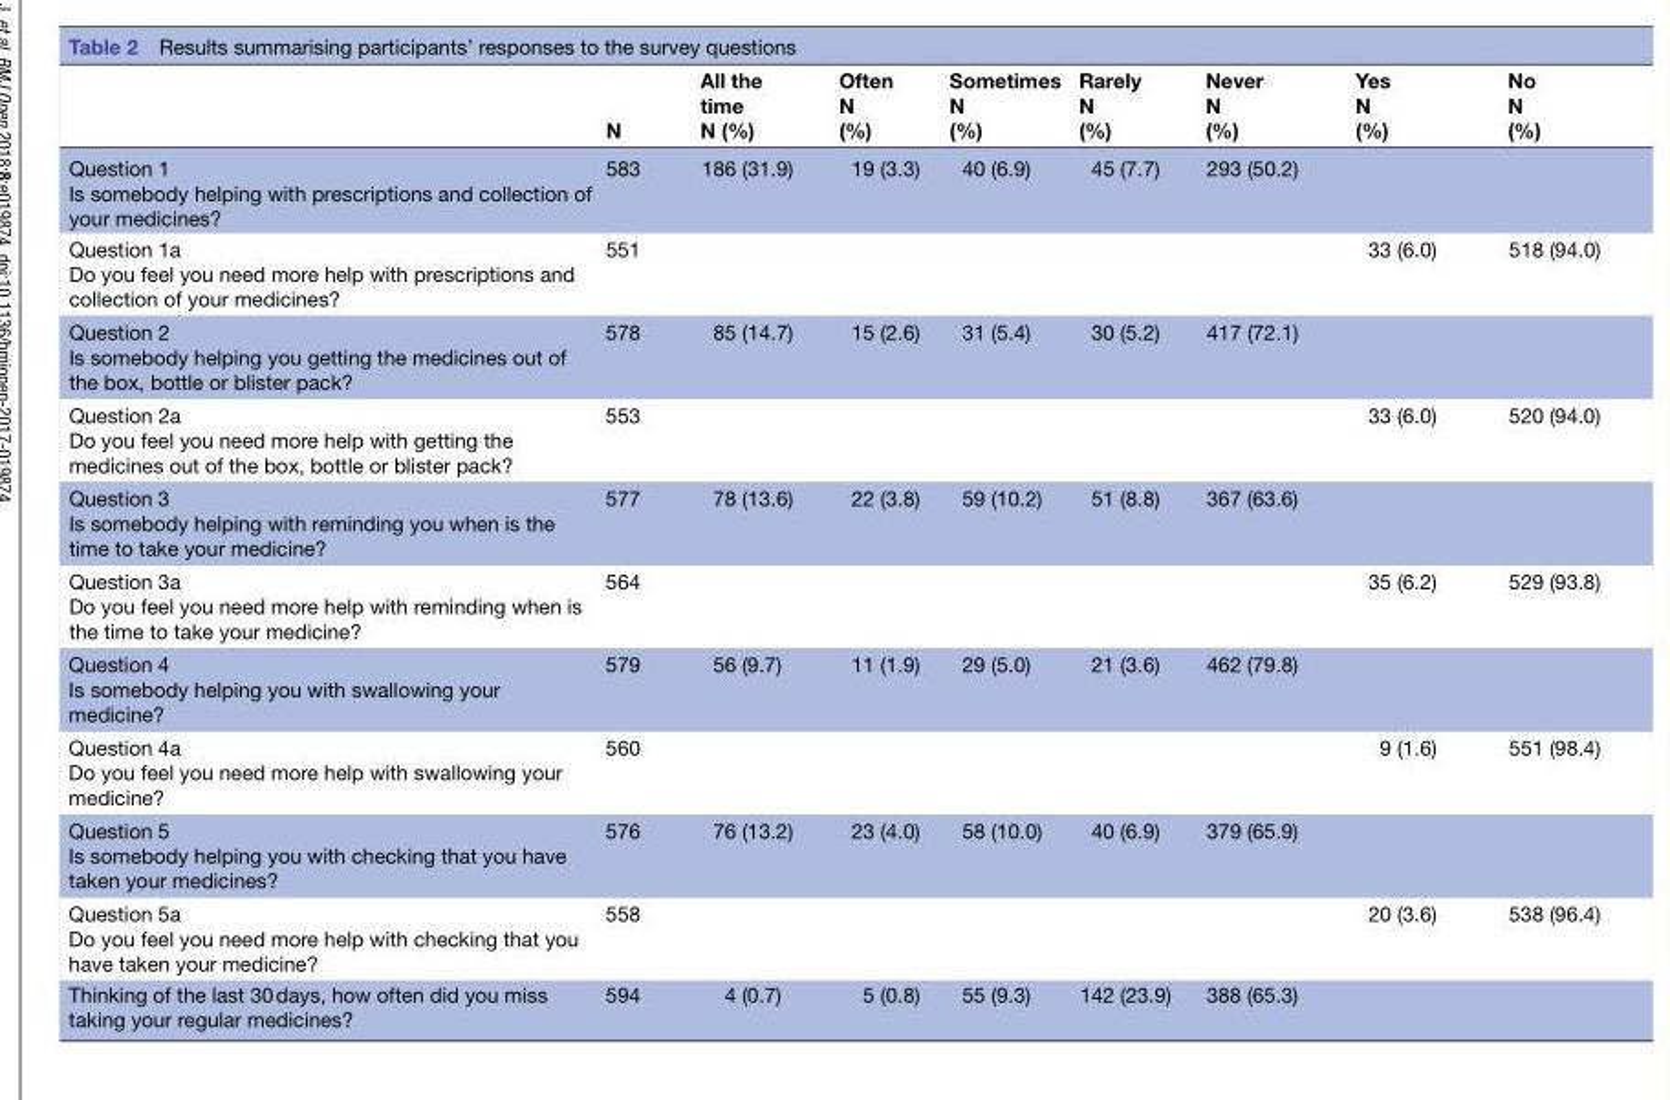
<table><thead><tr><td></td><td>N</td><td>All the time N (%)</td><td>Often N (%)</td><td>Sometimes N (%)</td><td>Rarely N (%)</td><td>Never N (%)</td><td>Yes N (%)</td><td>No N (%)</td></tr></thead><tbody><tr><td>Question 1 Is somebody helping with prescriptions and collection of your medicines?</td><td>583</td><td>186 (31.9)</td><td>19 (3.3)</td><td>40 (6.9)</td><td>45 (7.7)</td><td>293 (50.2)</td><td></td><td></td></tr><tr><td>Question 1a Do you feel you need more help with prescriptions and collection of your medicines?</td><td>551</td><td></td><td></td><td></td><td></td><td></td><td>33 (6.0)</td><td>518 (94.0)</td></tr><tr><td>Question 2 Is somebody helping you getting the medicines out of the box, bottle or blister pack?</td><td>578</td><td>85 (14.7)</td><td>15 (2.6)</td><td>31 (5.4)</td><td>30 (5.2)</td><td>417 (72.1)</td><td></td><td></td></tr><tr><td>Question 2a Do you feel you need more help with getting the medicines out of the box, bottle or blister pack?</td><td>553</td><td></td><td></td><td></td><td></td><td></td><td>33 (6.0)</td><td>520 (94.0)</td></tr><tr><td>Question 3 Is somebody helping with reminding you when is the time to take your medicine?</td><td>577</td><td>78 (13.6)</td><td>22 (3.8)</td><td>59 (10.2)</td><td>51 (8.8)</td><td>367 (63.6)</td><td></td><td></td></tr><tr><td>Question 3a Do you feel you need more help with reminding when is the time to take your medicine?</td><td>564</td><td></td><td></td><td></td><td></td><td></td><td>35 (6.2)</td><td>529 (93.8)</td></tr><tr><td>Question 4 Is somebody helping you with swallowing your medicine?</td><td>579</td><td>56 (9.7)</td><td>11 (1.9)</td><td>29 (5.0)</td><td>21 (3.6)</td><td>462 (79.8)</td><td></td><td></td></tr><tr><td>Question 4a Do you feel you need more help with swallowing your medicine?</td><td>560</td><td></td><td></td><td></td><td></td><td></td><td>9 (1.6)</td><td>551 (98.4)</td></tr><tr><td>Question 5 Is somebody helping you with checking that you have taken your medicines?</td><td>576</td><td>76 (13.2)</td><td>23 (4.0)</td><td>58 (10.0)</td><td>40 (6.9)</td><td>379 (65.9)</td><td></td><td></td></tr><tr><td>Question 5a Do you feel you need more help with checking that you have taken your medicine?</td><td>558</td><td></td><td></td><td></td><td></td><td></td><td>20 (3.6)</td><td>538 (96.4)</td></tr><tr><td>Thinking of the last 30 days, how often did you miss taking your regular medicines?</td><td>594</td><td>4 (0.7)</td><td>5 (0.8)</td><td>55 (9.3)</td><td>142 (23.9)</td><td>388 (65.3)</td><td></td><td></td></tr></tbody></table>